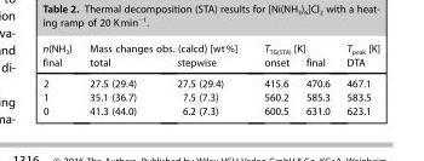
<table><thead><tr><td rowspan="2">n(NH<sub>3</sub>) final</td><td colspan="2">Mass changes obs. (calcd) [wt%]</td><td colspan="2">T<sub>TG(STA)</sub> [K]</td><td rowspan="2">T<sub>peak</sub> [K] DTA</td></tr><tr><td>total</td><td>stepwise</td><td>onset</td><td>final</td></tr></thead><tbody><tr><td>2</td><td>27.5 (29.4)</td><td>27.5 (29.4)</td><td>415.6</td><td>470.6</td><td>467.1</td></tr><tr><td>1</td><td>35.1 (36.7)</td><td>7.5 (7.3)</td><td>560.2</td><td>585.3</td><td>583.5</td></tr><tr><td>0</td><td>41.3 (44.0)</td><td>6.2 (7.3)</td><td>600.5</td><td>631.0</td><td>623.1</td></tr></tbody></table>